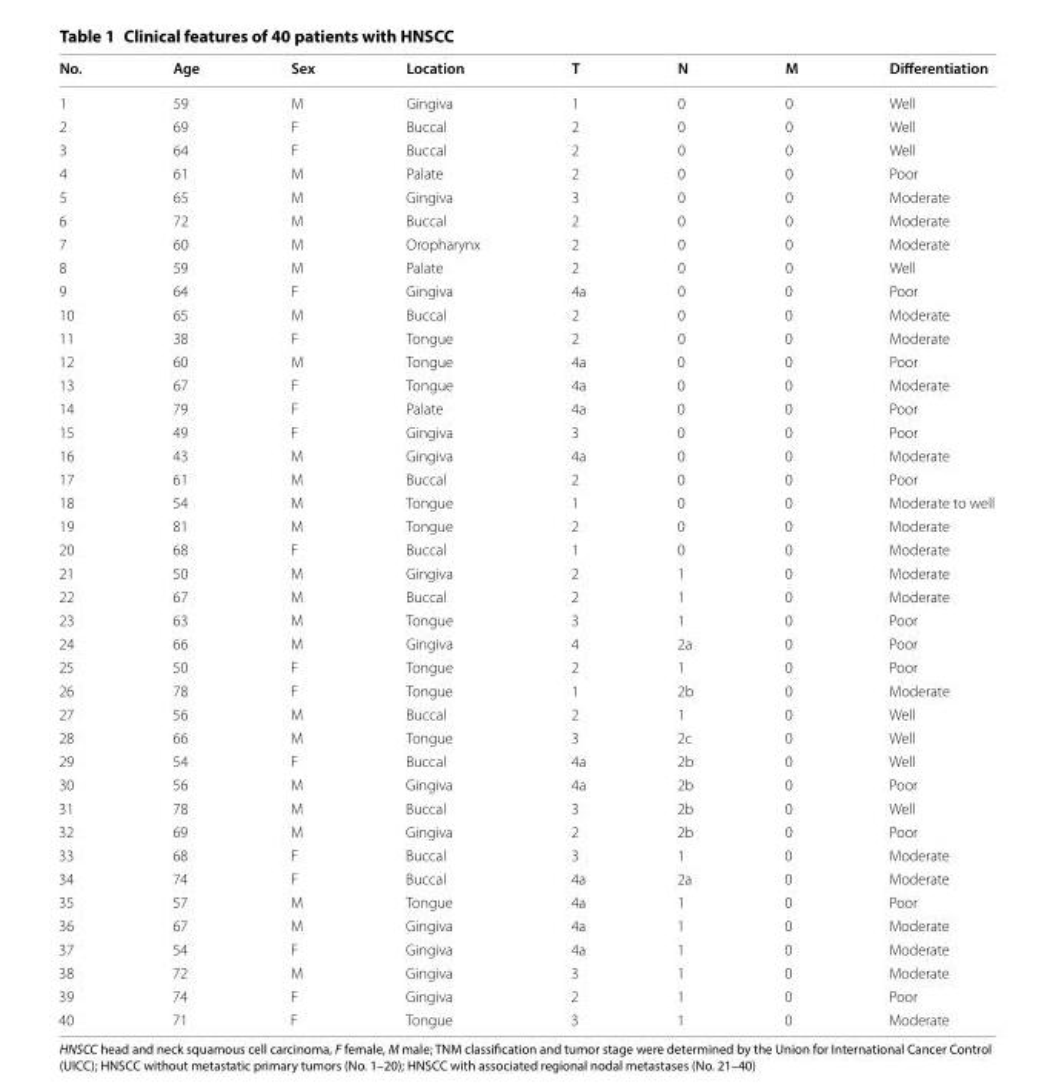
<table><thead><tr><td>No.</td><td>Age</td><td>Sex</td><td>Location</td><td>T</td><td>N</td><td>M</td><td>Differentiation</td></tr></thead><tbody><tr><td>1</td><td>59</td><td>M</td><td>Gingiva</td><td>1</td><td>0</td><td>0</td><td>Well</td></tr><tr><td>2</td><td>69</td><td>F</td><td>Buccal</td><td>2</td><td>0</td><td>0</td><td>Well</td></tr><tr><td>3</td><td>64</td><td>F</td><td>Buccal</td><td>2</td><td>0</td><td>0</td><td>Well</td></tr><tr><td>4</td><td>61</td><td>M</td><td>Palate</td><td>2</td><td>0</td><td>0</td><td>Poor</td></tr><tr><td>5</td><td>65</td><td>M</td><td>Gingiva</td><td>3</td><td>0</td><td>0</td><td>Moderate</td></tr><tr><td>6</td><td>72</td><td>M</td><td>Buccal</td><td>2</td><td>0</td><td>0</td><td>Moderate</td></tr><tr><td>7</td><td>60</td><td>M</td><td>Oropharynx</td><td>2</td><td>0</td><td>0</td><td>Moderate</td></tr><tr><td>8</td><td>59</td><td>M</td><td>Palate</td><td>2</td><td>0</td><td>0</td><td>Well</td></tr><tr><td>9</td><td>64</td><td>F</td><td>Gingiva</td><td>4a</td><td>0</td><td>0</td><td>Poor</td></tr><tr><td>10</td><td>65</td><td>M</td><td>Buccal</td><td>2</td><td>0</td><td>0</td><td>Moderate</td></tr><tr><td>11</td><td>38</td><td>F</td><td>Tongue</td><td>2</td><td>0</td><td>0</td><td>Moderate</td></tr><tr><td>12</td><td>60</td><td>M</td><td>Tongue</td><td>4a</td><td>0</td><td>0</td><td>Poor</td></tr><tr><td>13</td><td>67</td><td>F</td><td>Tongue</td><td>4a</td><td>0</td><td>0</td><td>Moderate</td></tr><tr><td>14</td><td>79</td><td>F</td><td>Palate</td><td>4a</td><td>0</td><td>0</td><td>Poor</td></tr><tr><td>15</td><td>49</td><td>F</td><td>Gingiva</td><td>3</td><td>0</td><td>0</td><td>Poor</td></tr><tr><td>16</td><td>43</td><td>M</td><td>Gingiva</td><td>4a</td><td>0</td><td>0</td><td>Moderate</td></tr><tr><td>17</td><td>61</td><td>M</td><td>Buccal</td><td>2</td><td>0</td><td>0</td><td>Poor</td></tr><tr><td>18</td><td>54</td><td>M</td><td>Tongue</td><td>1</td><td>0</td><td>0</td><td>Moderate to well</td></tr><tr><td>19</td><td>81</td><td>M</td><td>Tongue</td><td>2</td><td>0</td><td>0</td><td>Moderate</td></tr><tr><td>20</td><td>68</td><td>F</td><td>Buccal</td><td>1</td><td>0</td><td>0</td><td>Moderate</td></tr><tr><td>21</td><td>50</td><td>M</td><td>Gingiva</td><td>2</td><td>1</td><td>0</td><td>Moderate</td></tr><tr><td>22</td><td>67</td><td>M</td><td>Buccal</td><td>2</td><td>1</td><td>0</td><td>Moderate</td></tr><tr><td>23</td><td>63</td><td>M</td><td>Tongue</td><td>3</td><td>1</td><td>0</td><td>Poor</td></tr><tr><td>24</td><td>66</td><td>M</td><td>Gingiva</td><td>4</td><td>2a</td><td>0</td><td>Poor</td></tr><tr><td>25</td><td>50</td><td>F</td><td>Tongue</td><td>2</td><td>1</td><td>0</td><td>Poor</td></tr><tr><td>26</td><td>78</td><td>F</td><td>Tongue</td><td>1</td><td>2b</td><td>0</td><td>Moderate</td></tr><tr><td>27</td><td>56</td><td>M</td><td>Buccal</td><td>2</td><td>1</td><td>0</td><td>Well</td></tr><tr><td>28</td><td>66</td><td>M</td><td>Tongue</td><td>3</td><td>2c</td><td>0</td><td>Well</td></tr><tr><td>29</td><td>54</td><td>F</td><td>Buccal</td><td>4a</td><td>2b</td><td>0</td><td>Well</td></tr><tr><td>30</td><td>56</td><td>M</td><td>Gingiva</td><td>4a</td><td>2b</td><td>0</td><td>Poor</td></tr><tr><td>31</td><td>78</td><td>M</td><td>Buccal</td><td>3</td><td>2b</td><td>0</td><td>Well</td></tr><tr><td>32</td><td>69</td><td>M</td><td>Gingiva</td><td>2</td><td>2b</td><td>0</td><td>Poor</td></tr><tr><td>33</td><td>68</td><td>F</td><td>Buccal</td><td>3</td><td>1</td><td>0</td><td>Moderate</td></tr><tr><td>34</td><td>74</td><td>F</td><td>Buccal</td><td>4a</td><td>2a</td><td>0</td><td>Moderate</td></tr><tr><td>35</td><td>57</td><td>M</td><td>Tongue</td><td>4a</td><td>1</td><td>0</td><td>Poor</td></tr><tr><td>36</td><td>67</td><td>M</td><td>Gingiva</td><td>4a</td><td>1</td><td>0</td><td>Moderate</td></tr><tr><td>37</td><td>54</td><td>F</td><td>Gingiva</td><td>4a</td><td>1</td><td>0</td><td>Moderate</td></tr><tr><td>38</td><td>72</td><td>M</td><td>Gingiva</td><td>3</td><td>1</td><td>0</td><td>Moderate</td></tr><tr><td>39</td><td>74</td><td>F</td><td>Gingiva</td><td>2</td><td>1</td><td>0</td><td>Poor</td></tr><tr><td>40</td><td>71</td><td>F</td><td>Tongue</td><td>3</td><td>1</td><td>0</td><td>Moderate</td></tr></tbody></table>